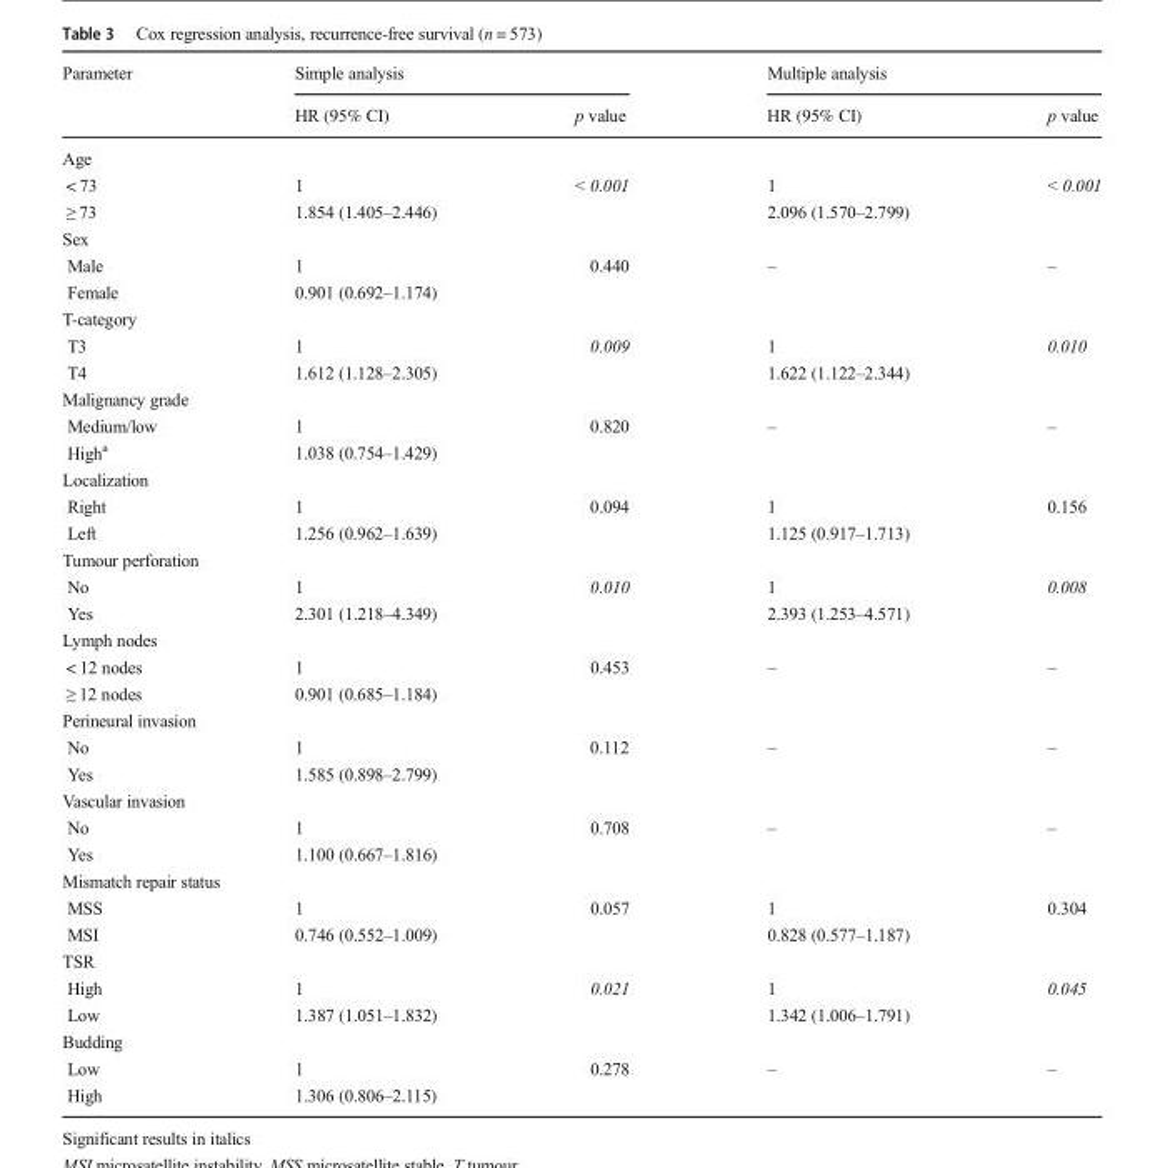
<table><thead><tr><td rowspan="2">Parameter</td><td colspan="2">Simple analysis</td><td colspan="2">Multiple analysis</td></tr><tr><td>HR (95% CI)</td><td>p value</td><td>HR (95% CI)</td><td>p value</td></tr></thead><tbody><tr><td colspan="5">Age</td></tr><tr><td>&lt; 73</td><td>1</td><td>&lt; 0.001</td><td>1</td><td>&lt; 0.001</td></tr><tr><td>≥ 73</td><td>1.854 (1.405–2.446)</td><td></td><td>2.096 (1.570–2.799)</td><td></td></tr><tr><td colspan="5">Sex</td></tr><tr><td>Male</td><td>1</td><td>0.440</td><td>–</td><td>–</td></tr><tr><td>Female</td><td>0.901 (0.692–1.174)</td><td></td><td></td><td></td></tr><tr><td colspan="5">T-category</td></tr><tr><td>T3</td><td>1</td><td>0.009</td><td>1</td><td>0.010</td></tr><tr><td>T4</td><td>1.612 (1.128–2.305)</td><td></td><td>1.622 (1.122–2.344)</td><td></td></tr><tr><td colspan="5">Malignancy grade</td></tr><tr><td>Medium/low</td><td>1</td><td>0.820</td><td>–</td><td>–</td></tr><tr><td>High<sup>a</sup></td><td>1.038 (0.754–1.429)</td><td></td><td></td><td></td></tr><tr><td colspan="5">Localization</td></tr><tr><td>Right</td><td>1</td><td>0.094</td><td>1</td><td>0.156</td></tr><tr><td>Left</td><td>1.256 (0.962–1.639)</td><td></td><td>1.125 (0.917–1.713)</td><td></td></tr><tr><td colspan="5">Tumour perforation</td></tr><tr><td>No</td><td>1</td><td>0.010</td><td>1</td><td>0.008</td></tr><tr><td>Yes</td><td>2.301 (1.218–4.349)</td><td></td><td>2.393 (1.253–4.571)</td><td></td></tr><tr><td colspan="5">Lymph nodes</td></tr><tr><td>&lt; 12 nodes</td><td>1</td><td>0.453</td><td>–</td><td>–</td></tr><tr><td>≥ 12 nodes</td><td>0.901 (0.685–1.184)</td><td></td><td></td><td></td></tr><tr><td colspan="5">Perineural invasion</td></tr><tr><td>No</td><td>1</td><td>0.112</td><td>–</td><td>–</td></tr><tr><td>Yes</td><td>1.585 (0.898–2.799)</td><td></td><td></td><td></td></tr><tr><td colspan="5">Vascular invasion</td></tr><tr><td>No</td><td>1</td><td>0.708</td><td>–</td><td>–</td></tr><tr><td>Yes</td><td>1.100 (0.667–1.816)</td><td></td><td></td><td></td></tr><tr><td colspan="5">Mismatch repair status</td></tr><tr><td>MSS</td><td>1</td><td>0.057</td><td>1</td><td>0.304</td></tr><tr><td>MSI</td><td>0.746 (0.552–1.009)</td><td></td><td>0.828 (0.577–1.187)</td><td></td></tr><tr><td colspan="5">TSR</td></tr><tr><td>High</td><td>1</td><td>0.021</td><td>1</td><td>0.045</td></tr><tr><td>Low</td><td>1.387 (1.051–1.832)</td><td></td><td>1.342 (1.006–1.791)</td><td></td></tr><tr><td colspan="5">Budding</td></tr><tr><td>Low</td><td>1</td><td>0.278</td><td>–</td><td>–</td></tr><tr><td>High</td><td>1.306 (0.806–2.115)</td><td></td><td></td><td></td></tr></tbody></table>